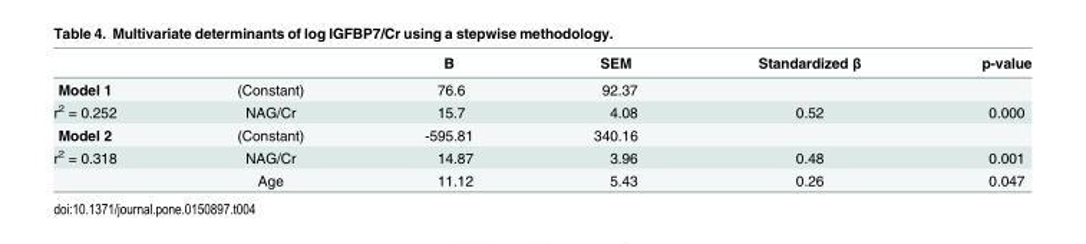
<table><thead><tr><td></td><td></td><td>B</td><td>SEM</td><td>Standardized β</td><td>p-value</td></tr></thead><tbody><tr><td>Model 1</td><td>(Constant)</td><td>76.6</td><td>92.37</td><td></td><td></td></tr><tr><td>r<sup>2</sup> = 0.252</td><td>NAG/Cr</td><td>15.7</td><td>4.08</td><td>0.52</td><td>0.000</td></tr><tr><td>Model 2</td><td>(Constant)</td><td>-595.81</td><td>340.16</td><td></td><td></td></tr><tr><td rowspan="2">r<sup>2</sup> = 0.318</td><td>NAG/Cr</td><td>14.87</td><td>3.96</td><td>0.48</td><td>0.001</td></tr><tr><td>Age</td><td>11.12</td><td>5.43</td><td>0.26</td><td>0.047</td></tr></tbody></table>